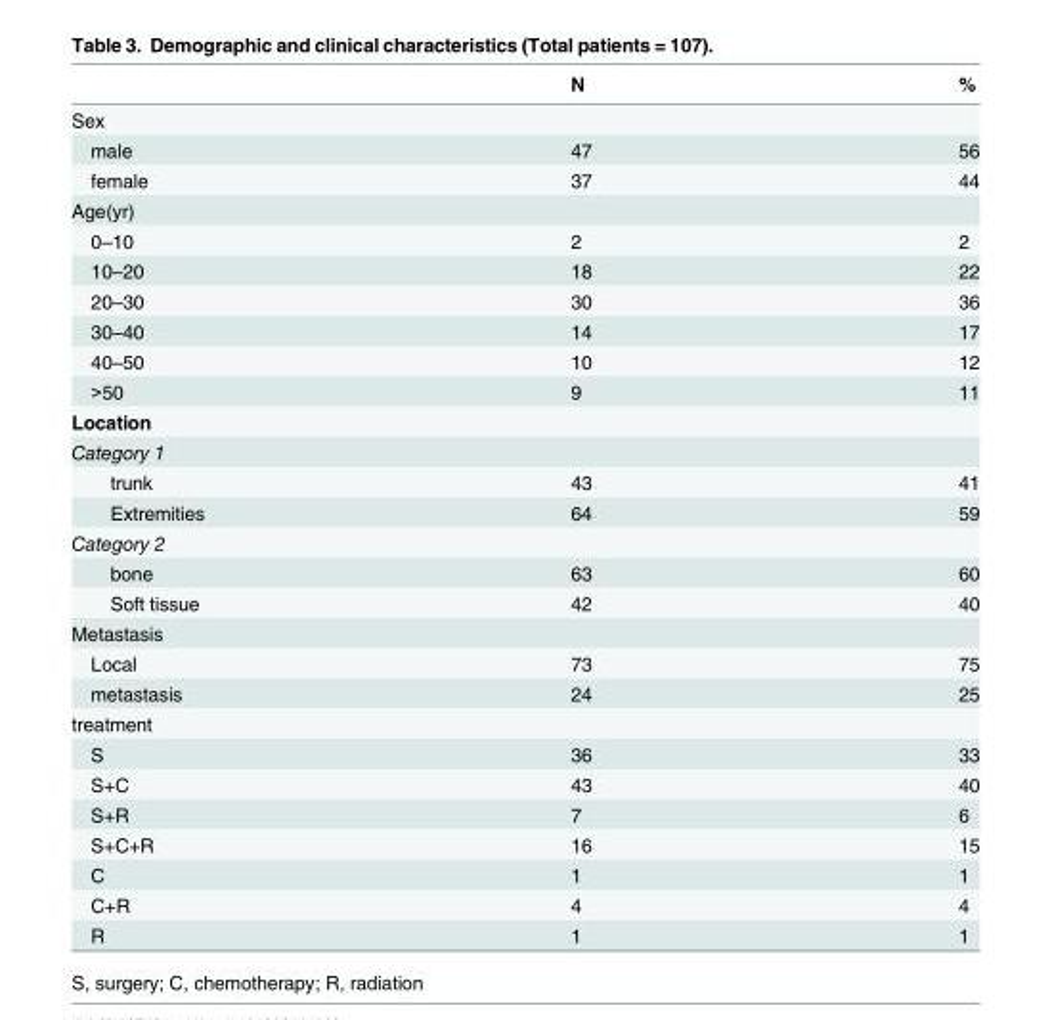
<table><thead><tr><td></td><td>N</td><td>%</td></tr></thead><tbody><tr><td colspan="3">Sex</td></tr><tr><td>male</td><td>47</td><td>56</td></tr><tr><td>female</td><td>37</td><td>44</td></tr><tr><td colspan="3">Age(yr)</td></tr><tr><td>0–10</td><td>2</td><td>2</td></tr><tr><td>10–20</td><td>18</td><td>22</td></tr><tr><td>20–30</td><td>30</td><td>36</td></tr><tr><td>30–40</td><td>14</td><td>17</td></tr><tr><td>40–50</td><td>10</td><td>12</td></tr><tr><td>&gt;50</td><td>9</td><td>11</td></tr><tr><td colspan="3">Location</td></tr><tr><td colspan="3">Category 1</td></tr><tr><td>trunk</td><td>43</td><td>41</td></tr><tr><td>Extremities</td><td>64</td><td>59</td></tr><tr><td colspan="3">Category 2</td></tr><tr><td>bone</td><td>63</td><td>60</td></tr><tr><td>Soft tissue</td><td>42</td><td>40</td></tr><tr><td colspan="3">Metastasis</td></tr><tr><td>Local</td><td>73</td><td>75</td></tr><tr><td>metastasis</td><td>24</td><td>25</td></tr><tr><td colspan="3">treatment</td></tr><tr><td>S</td><td>36</td><td>33</td></tr><tr><td>S+C</td><td>43</td><td>40</td></tr><tr><td>S+R</td><td>7</td><td>6</td></tr><tr><td>S+C+R</td><td>16</td><td>15</td></tr><tr><td>C</td><td>1</td><td>1</td></tr><tr><td>C+R</td><td>4</td><td>4</td></tr><tr><td>R</td><td>1</td><td>1</td></tr></tbody></table>